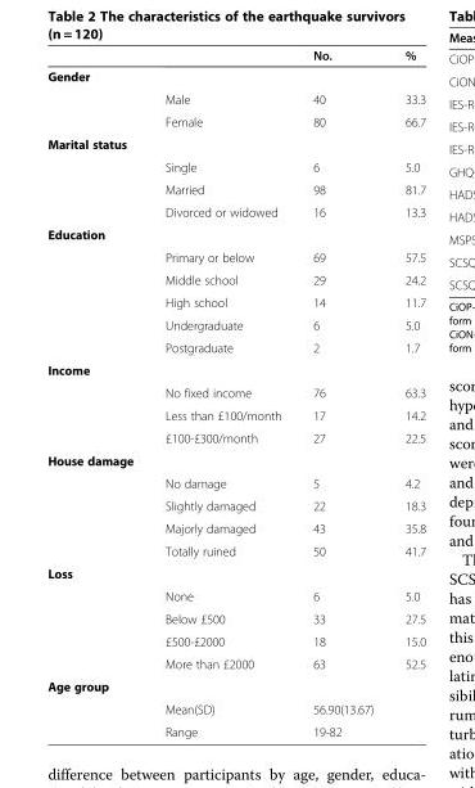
<table><thead><tr><td></td><td></td><td>No.</td><td>%</td></tr></thead><tbody><tr><td colspan="4">Gender</td></tr><tr><td></td><td>Male</td><td>40</td><td>33.3</td></tr><tr><td></td><td>Female</td><td>80</td><td>66.7</td></tr><tr><td colspan="4">Marital status</td></tr><tr><td></td><td>Single</td><td>6</td><td>5.0</td></tr><tr><td></td><td>Married</td><td>98</td><td>81.7</td></tr><tr><td></td><td>Divorced or widowed</td><td>16</td><td>13.3</td></tr><tr><td colspan="4">Education</td></tr><tr><td></td><td>Primary or below</td><td>69</td><td>57.5</td></tr><tr><td></td><td>Middle school</td><td>29</td><td>24.2</td></tr><tr><td></td><td>High school</td><td>14</td><td>11.7</td></tr><tr><td></td><td>Undergraduate</td><td>6</td><td>5.0</td></tr><tr><td></td><td>Postgraduate</td><td>2</td><td>1.7</td></tr><tr><td colspan="4">Income</td></tr><tr><td></td><td>No fixed income</td><td>76</td><td>63.3</td></tr><tr><td></td><td>Less than £100/month</td><td>17</td><td>14.2</td></tr><tr><td></td><td>£100-£300/month</td><td>27</td><td>22.5</td></tr><tr><td colspan="4">House damage</td></tr><tr><td></td><td>No damage</td><td>5</td><td>4.2</td></tr><tr><td></td><td>Slightly damaged</td><td>22</td><td>18.3</td></tr><tr><td></td><td>Majorly damaged</td><td>43</td><td>35.8</td></tr><tr><td></td><td>Totally ruined</td><td>50</td><td>41.7</td></tr><tr><td colspan="4">Loss</td></tr><tr><td></td><td>None</td><td>6</td><td>5.0</td></tr><tr><td></td><td>Below £500</td><td>33</td><td>27.5</td></tr><tr><td></td><td>£500-£2000</td><td>18</td><td>15.0</td></tr><tr><td></td><td>More than £2000</td><td>63</td><td>52.5</td></tr><tr><td colspan="4">Age group</td></tr><tr><td></td><td>Mean(SD)</td><td>56.90(13.67)</td><td></td></tr><tr><td></td><td>Range</td><td>19-82</td><td></td></tr></tbody></table>